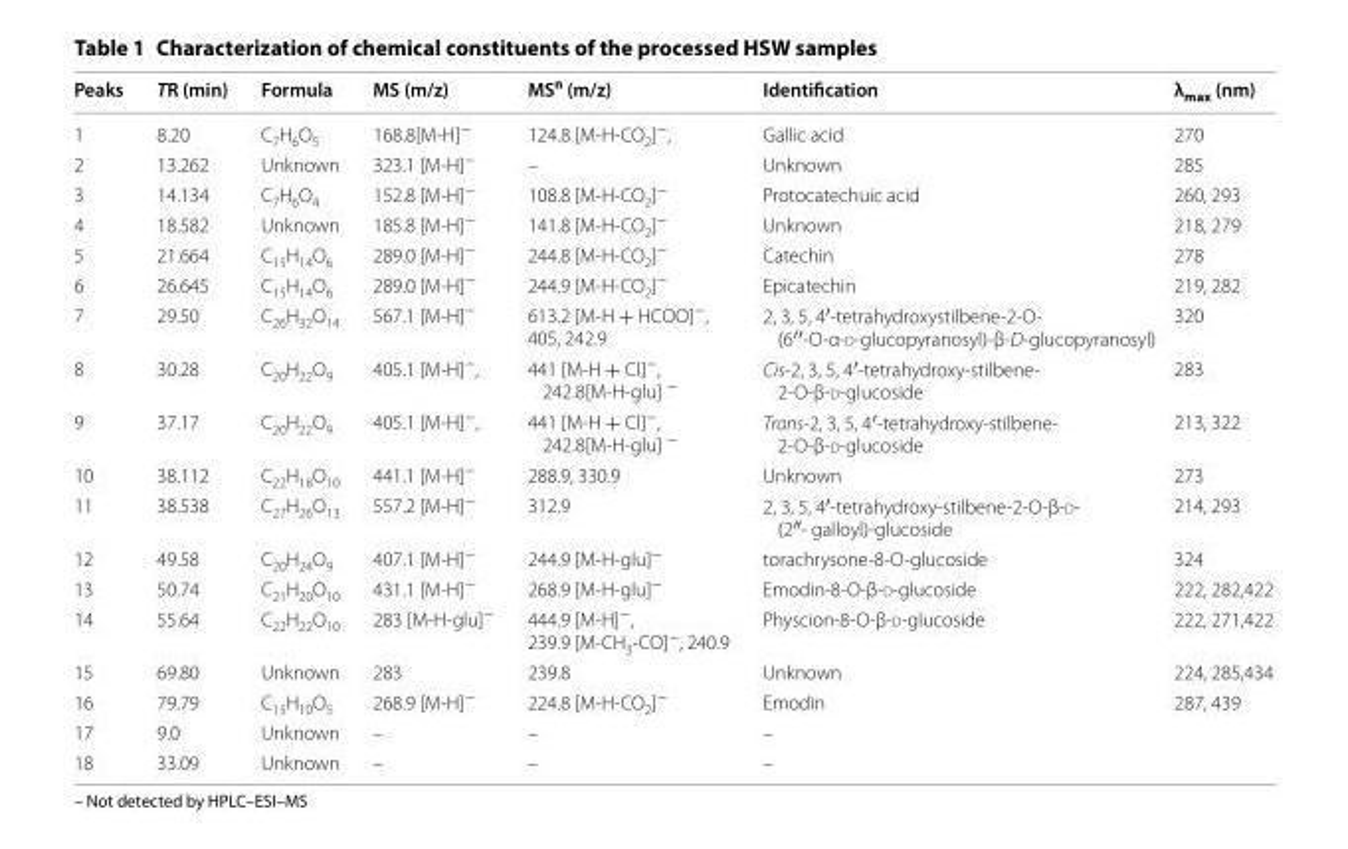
<table><thead><tr><td>Peaks</td><td>TR (min)</td><td>Formula</td><td>MS (m/z)</td><td>MS<sup>n</sup> (m/z)</td><td>Identification</td><td>λ<sub>max</sub> (nm)</td></tr></thead><tbody><tr><td>1</td><td>8.20</td><td>C<sub>7</sub>H<sub>6</sub>O<sub>5</sub></td><td>168.8[M-H]<sup>−</sup></td><td>124.8 [M-H-CO<sub>2</sub>]<sup>−</sup>,</td><td>Gallic acid</td><td>270</td></tr><tr><td>2</td><td>13.262</td><td>Unknown</td><td>323.1 [M-H]<sup>−</sup></td><td>–</td><td>Unknown</td><td>285</td></tr><tr><td>3</td><td>14.134</td><td>C<sub>7</sub>H<sub>6</sub>O<sub>4</sub></td><td>152.8 [M-H]<sup>−</sup></td><td>108.8 [M-H-CO<sub>2</sub>]<sup>−</sup></td><td>Protocatechuic acid</td><td>260, 293</td></tr><tr><td>4</td><td>18.582</td><td>Unknown</td><td>185.8 [M-H]<sup>−</sup></td><td>141.8 [M-H-CO<sub>2</sub>]<sup>−</sup></td><td>Unknown</td><td>218, 279</td></tr><tr><td>5</td><td>21.664</td><td>C<sub>15</sub>H<sub>14</sub>O<sub>6</sub></td><td>289.0 [M-H]<sup>−</sup></td><td>244.8 [M-H-CO<sub>2</sub>]<sup>−</sup></td><td>Catechin</td><td>278</td></tr><tr><td>6</td><td>26.645</td><td>C<sub>15</sub>H<sub>14</sub>O<sub>6</sub></td><td>289.0 [M-H]<sup>−</sup></td><td>244.9 [M-H-CO<sub>2</sub>]<sup>−</sup></td><td>Epicatechin</td><td>219, 282</td></tr><tr><td>7</td><td>29.50</td><td>C<sub>26</sub>H<sub>32</sub>O<sub>14</sub></td><td>567.1 [M-H]<sup>−</sup></td><td>613.2 [M-H + HCOO]<sup>−</sup>, 405, 242.9</td><td>2, 3, 5, 4′-tetrahydroxystilbene-2-O- (6′′-O-α-d-glucopyranosyl)-β-D-glucopyranosyl)</td><td>320</td></tr><tr><td>8</td><td>30.28</td><td>C<sub>20</sub>H<sub>22</sub>O<sub>9</sub></td><td>405.1 [M-H]<sup>−</sup>,</td><td>441 [M-H + Cl]<sup>−</sup>, 242.8[M-H-glu] <sup>−</sup></td><td>Cis-2, 3, 5, 4′-tetrahydroxy-stilbene- 2-O-β-d-glucoside</td><td>283</td></tr><tr><td>9</td><td>37.17</td><td>C<sub>20</sub>H<sub>22</sub>O<sub>9</sub></td><td>405.1 [M-H]<sup>−</sup>,</td><td>441 [M-H + Cl]<sup>−</sup>, 242.8[M-H-glu] <sup>−</sup></td><td>Trans-2, 3, 5, 4′-tetrahydroxy-stilbene- 2-O-β-d-glucoside</td><td>213, 322</td></tr><tr><td>10</td><td>38.112</td><td>C<sub>22</sub>H<sub>18</sub>O<sub>10</sub></td><td>441.1 [M-H]<sup>−</sup></td><td>288.9, 330.9</td><td>Unknown</td><td>273</td></tr><tr><td>11</td><td>38.538</td><td>C<sub>27</sub>H<sub>26</sub>O<sub>13</sub></td><td>557.2 [M-H]<sup>−</sup></td><td>312.9</td><td>2, 3, 5, 4′-tetrahydroxy-stilbene-2-O-β-d- (2″- galloyl)-glucoside</td><td>214, 293</td></tr><tr><td>12</td><td>49.58</td><td>C<sub>20</sub>H<sub>24</sub>O<sub>9</sub></td><td>407.1 [M-H]<sup>−</sup></td><td>244.9 [M-H-glu]<sup>−</sup></td><td>torachrysone-8-O-glucoside</td><td>324</td></tr><tr><td>13</td><td>50.74</td><td>C<sub>21</sub>H<sub>20</sub>O<sub>10</sub></td><td>431.1 [M-H]<sup>−</sup></td><td>268.9 [M-H-glu]<sup>−</sup></td><td>Emodin-8-O-β-d-glucoside</td><td>222, 282,422</td></tr><tr><td>14</td><td>55.64</td><td>C<sub>22</sub>H<sub>22</sub>O<sub>10</sub></td><td>283 [M-H-glu]<sup>−</sup></td><td>444.9 [M-H]<sup>−</sup>, 239.9 [M-CH<sub>3</sub>-CO]<sup>−</sup>, 240.9</td><td>Physcion-8-O-β-d-glucoside</td><td>222, 271,422</td></tr><tr><td>15</td><td>69.80</td><td>Unknown</td><td>283</td><td>239.8</td><td>Unknown</td><td>224, 285,434</td></tr><tr><td>16</td><td>79.79</td><td>C<sub>15</sub>H<sub>10</sub>O<sub>5</sub></td><td>268.9 [M-H]<sup>−</sup></td><td>224.8 [M-H-CO<sub>2</sub>]<sup>−</sup></td><td>Emodin</td><td>287, 439</td></tr><tr><td>17</td><td>9.0</td><td>Unknown</td><td>–</td><td>–</td><td>–</td><td></td></tr><tr><td>18</td><td>33.09</td><td>Unknown</td><td>–</td><td>–</td><td>–</td><td></td></tr></tbody></table>